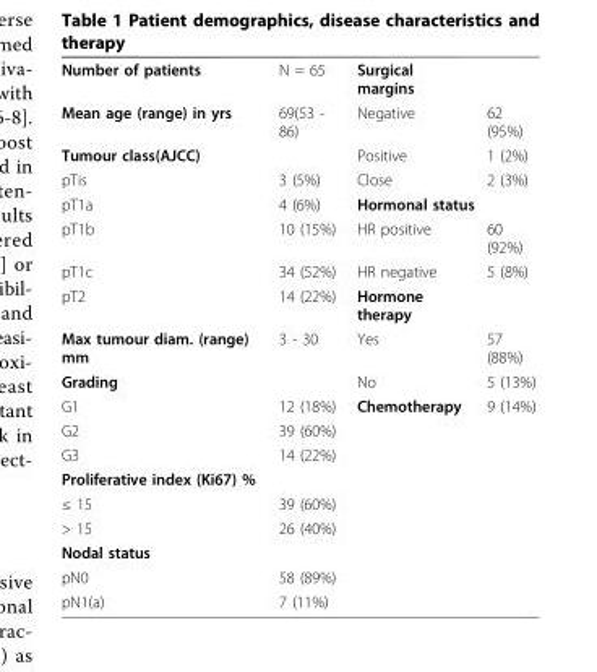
<table><tbody><tr><td>Number of patients</td><td>N = 65</td><td>Surgical margins</td><td></td></tr><tr><td>Mean age (range) in yrs</td><td>69(53 - 86)</td><td>Negative</td><td>62 (95%)</td></tr><tr><td>Tumour class(AJCC)</td><td></td><td>Positive</td><td>1 (2%)</td></tr><tr><td>pTis</td><td>3 (5%)</td><td>Close</td><td>2 (3%)</td></tr><tr><td>pT1a</td><td>4 (6%)</td><td>Hormonal status</td><td></td></tr><tr><td>pT1b</td><td>10 (15%)</td><td>HR positive</td><td>60 (92%)</td></tr><tr><td>pT1c</td><td>34 (52%)</td><td>HR negative</td><td>5 (8%)</td></tr><tr><td>pT2</td><td>14 (22%)</td><td>Hormone therapy</td><td></td></tr><tr><td>Max tumour diam. (range) mm</td><td>3 - 30</td><td>Yes</td><td>57 (88%)</td></tr><tr><td>Grading</td><td></td><td>No</td><td>5 (13%)</td></tr><tr><td>G1</td><td>12 (18%)</td><td>Chemotherapy</td><td>9 (14%)</td></tr><tr><td>G2</td><td>39 (60%)</td><td></td><td></td></tr><tr><td>G3</td><td>14 (22%)</td><td></td><td></td></tr><tr><td colspan="4">Proliferative index (Ki67) %</td></tr><tr><td>≤ 15</td><td>39 (60%)</td><td></td><td></td></tr><tr><td>&gt; 15</td><td>26 (40%)</td><td></td><td></td></tr><tr><td colspan="4">Nodal status</td></tr><tr><td>pN0</td><td>58 (89%)</td><td></td><td></td></tr><tr><td>pN1(a)</td><td>7 (11%)</td><td></td><td></td></tr></tbody></table>